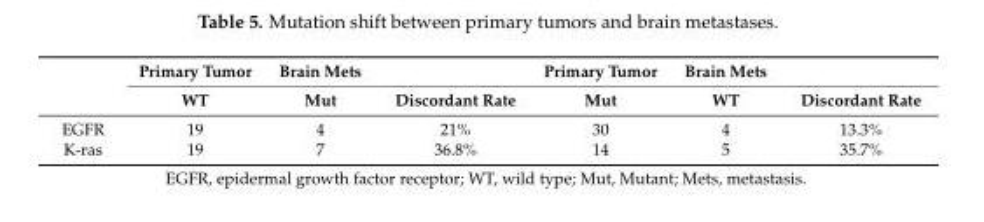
<table><thead><tr><td rowspan="2"></td><td rowspan="2">Primary Tumor WT</td><td rowspan="2">Brain Mets Mut</td><td rowspan="2">Discordant Rate</td><td rowspan="2">Primary Tumor Mut</td><td rowspan="2">Brain Mets WT</td><td rowspan="2">Discordant Rate</td></tr><tr></tr></thead><tbody><tr><td>EGFR</td><td>19</td><td>4</td><td>21%</td><td>30</td><td>4</td><td>13.3%</td></tr><tr><td>K-ras</td><td>19</td><td>7</td><td>36.8%</td><td>14</td><td>5</td><td>35.7%</td></tr></tbody></table>